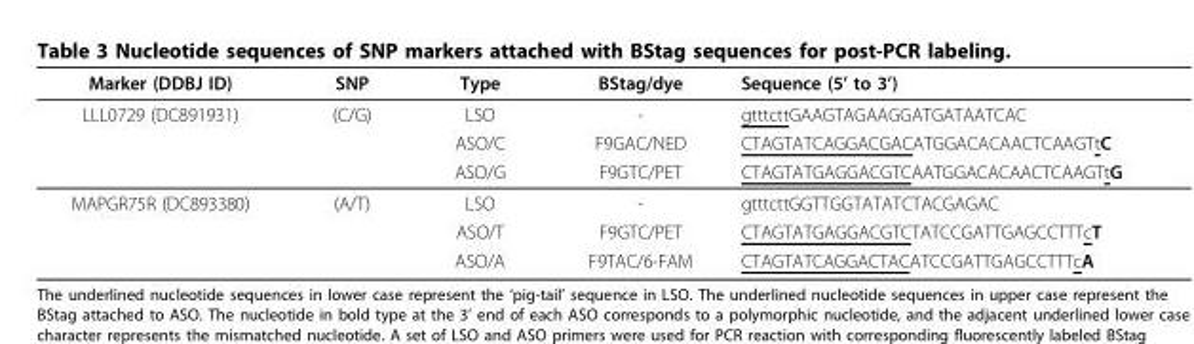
<table><thead><tr><td>Marker (DDBJ ID)</td><td>SNP</td><td>Type</td><td>BStag/dye</td><td>Sequence (5’ to 3’)</td></tr></thead><tbody><tr><td rowspan="3">LLL0729 (DC891931)</td><td>(C/G)</td><td>LSO</td><td>-</td><td>gtttcttGAAGTAGAAGGATGATAATCAC</td></tr><tr><td></td><td>ASO/C</td><td>F9GAC/NED</td><td>CTAGTATCAGGACGACATGGACACAACTCAAGTtC</td></tr><tr><td></td><td>ASO/G</td><td>F9GTC/PET</td><td>CTAGTATGAGGACGTCAATGGACACAACTCAAGTtG</td></tr><tr><td rowspan="3">MAPGR75R (DC893380)</td><td>(A/T)</td><td>LSO</td><td>-</td><td>gtttcttGGTTGGTATATCTACGAGAC</td></tr><tr><td></td><td>ASO/T</td><td>F9GTC/PET</td><td>CTAGTATGAGGACGTCTATCCGATTGAGCCTTTcT</td></tr><tr><td></td><td>ASO/A</td><td>F9TAC/6-FAM</td><td>CTAGTATCAGGACTACATCCGATTGAGCCTTTcA</td></tr></tbody></table>